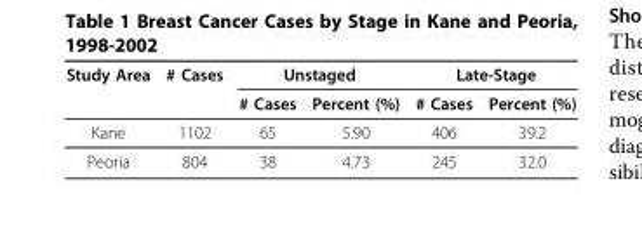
<table><thead><tr><td rowspan="2">Study Area</td><td rowspan="2"># Cases</td><td colspan="2">Unstaged</td><td colspan="2">Late-Stage</td></tr><tr><td># Cases</td><td>Percent (%)</td><td># Cases</td><td>Percent (%)</td></tr></thead><tbody><tr><td>Kane</td><td>1102</td><td>65</td><td>5.90</td><td>406</td><td>39.2</td></tr><tr><td>Peoria</td><td>804</td><td>38</td><td>4.73</td><td>245</td><td>32.0</td></tr></tbody></table>